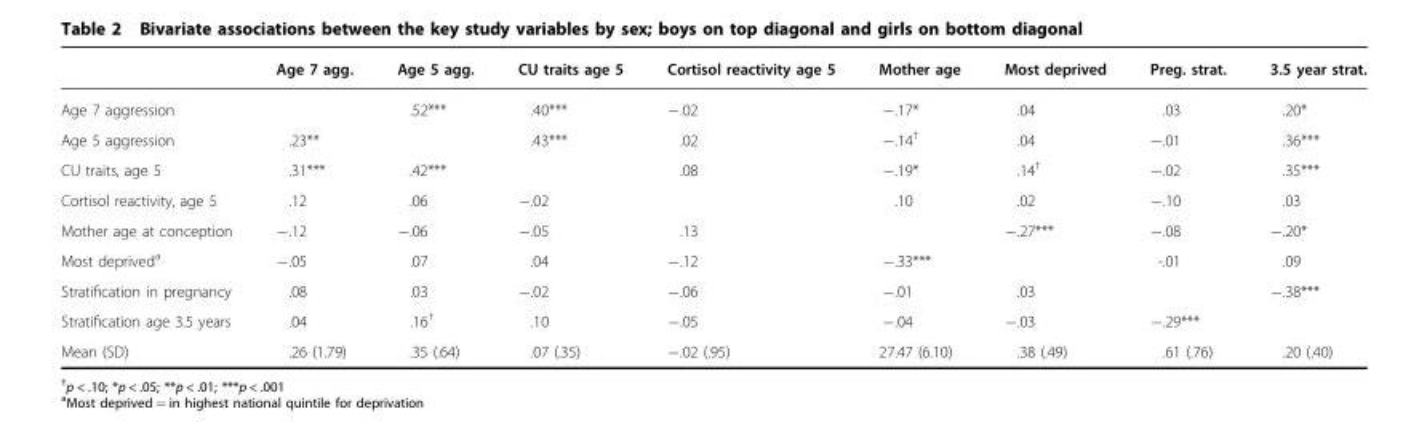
<table><thead><tr><td></td><td>Age 7 agg.</td><td>Age 5 agg.</td><td>CU traits age 5</td><td>Cortisol reactivity age 5</td><td>Mother age</td><td>Most deprived</td><td>Preg. strat.</td><td>3.5 year strat.</td></tr></thead><tbody><tr><td>Age 7 aggression</td><td></td><td>.52***</td><td>.40***</td><td>−.02</td><td>−.17*</td><td>.04</td><td>.03</td><td>.20*</td></tr><tr><td>Age 5 aggression</td><td>.23**</td><td></td><td>.43***</td><td>.02</td><td>−.14<sup>†</sup></td><td>.04</td><td>−.01</td><td>.36***</td></tr><tr><td>CU traits, age 5</td><td>.31***</td><td>.42***</td><td></td><td>.08</td><td>−.19*</td><td>.14<sup>†</sup></td><td>−.02</td><td>.35***</td></tr><tr><td>Cortisol reactivity, age 5</td><td>.12</td><td>.06</td><td>−.02</td><td></td><td>.10</td><td>.02</td><td>−.10</td><td>.03</td></tr><tr><td>Mother age at conception</td><td>−.12</td><td>−.06</td><td>−.05</td><td>.13</td><td></td><td>−.27***</td><td>−.08</td><td>−.20*</td></tr><tr><td>Most deprived<sup>a</sup></td><td>−.05</td><td>.07</td><td>.04</td><td>−.12</td><td>−.33***</td><td></td><td>-.01</td><td>.09</td></tr><tr><td>Stratification in pregnancy</td><td>.08</td><td>.03</td><td>−.02</td><td>−.06</td><td>−.01</td><td>.03</td><td></td><td>−.38***</td></tr><tr><td>Stratification age 3.5 years</td><td>.04</td><td>.16<sup>†</sup></td><td>.10</td><td>−.05</td><td>−.04</td><td>−.03</td><td>−.29***</td><td></td></tr><tr><td>Mean (SD)</td><td>.26 (1.79)</td><td>.35 (.64)</td><td>.07 (.35)</td><td>−.02 (.95)</td><td>27.47 (6.10)</td><td>.38 (.49)</td><td>.61 (.76)</td><td>.20 (.40)</td></tr></tbody></table>